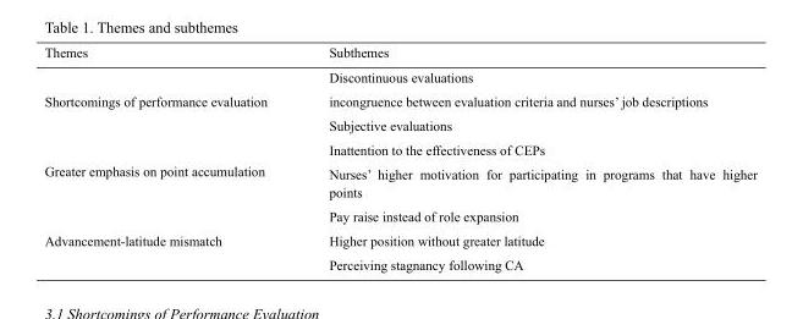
<table><thead><tr><td>Themes</td><td>Subthemes</td></tr></thead><tbody><tr><td rowspan="3">Shortcomings of performance evaluation</td><td>Discontinuous evaluations</td></tr><tr><td>incongruence between evaluation criteria and nurses’ job descriptions</td></tr><tr><td>Subjective evaluations</td></tr><tr><td rowspan="2">Greater emphasis on point accumulation</td><td>Inattention to the effectiveness of CEPs</td></tr><tr><td>Nurses’ higher motivation for participating in programs that have higher points</td></tr><tr><td rowspan="3">Advancement-latitude mismatch</td><td>Pay raise instead of role expansion</td></tr><tr><td>Higher position without greater latitude</td></tr><tr><td>Perceiving stagnancy following CA</td></tr></tbody></table>